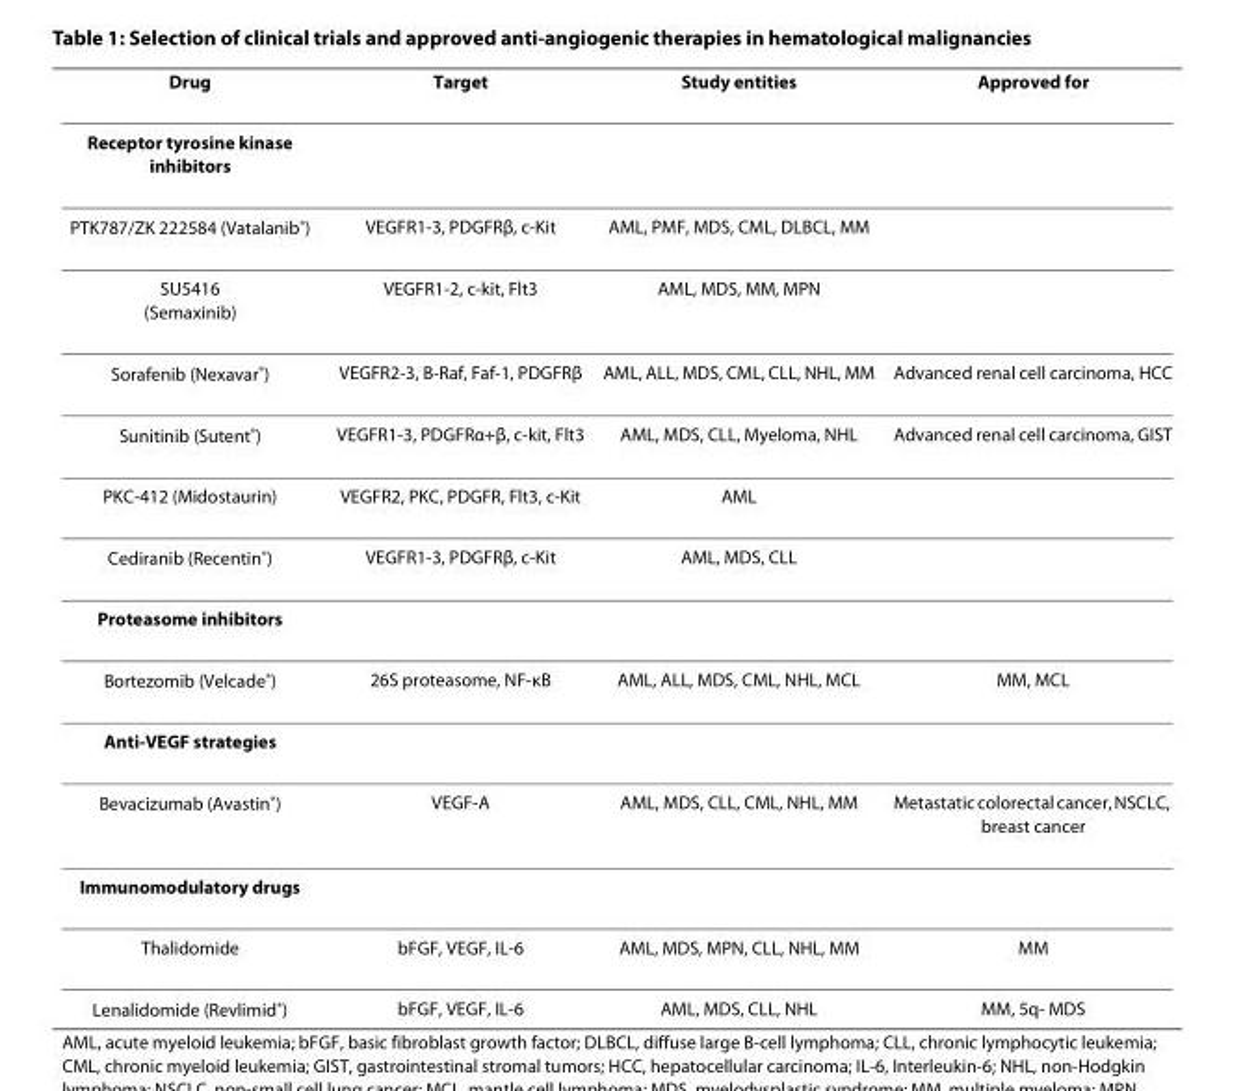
<table><thead><tr><td>Drug</td><td>Target</td><td>Study entities</td><td>Approved for</td></tr></thead><tbody><tr><td colspan="4">Receptor tyrosine kinase inhibitors</td></tr><tr><td>PTK787/ZK 222584 (Vatalanib<sup>®</sup>)</td><td>VEGFR1-3, PDGFRβ, c-Kit</td><td>AML, PMF, MDS, CML, DLBCL, MM</td><td></td></tr><tr><td>SU5416 (Semaxinib)</td><td>VEGFR1-2, c-kit, Flt3</td><td>AML, MDS, MM, MPN</td><td></td></tr><tr><td>Sorafenib (Nexavar<sup>®</sup>)</td><td>VEGFR2-3, B-Raf, Faf-1, PDGFRβ</td><td>AML, ALL, MDS, CML, CLL, NHL, MM</td><td>Advanced renal cell carcinoma, HCC</td></tr><tr><td>Sunitinib (Sutent<sup>®</sup>)</td><td>VEGFR1-3, PDGFRα+β, c-kit, Flt3</td><td>AML, MDS, CLL, Myeloma, NHL</td><td>Advanced renal cell carcinoma, GIST</td></tr><tr><td>PKC-412 (Midostaurin)</td><td>VEGFR2, PKC, PDGFR, Flt3, c-Kit</td><td>AML</td><td></td></tr><tr><td>Cediranib (Recentin<sup>®</sup>)</td><td>VEGFR1-3, PDGFRβ, c-Kit</td><td>AML, MDS, CLL</td><td></td></tr><tr><td colspan="4">Proteasome inhibitors</td></tr><tr><td>Bortezomib (Velcade<sup>®</sup>)</td><td>26S proteasome, NF-κB</td><td>AML, ALL, MDS, CML, NHL, MCL</td><td>MM, MCL</td></tr><tr><td colspan="4">Anti-VEGF strategies</td></tr><tr><td>Bevacizumab (Avastin<sup>®</sup>)</td><td>VEGF-A</td><td>AML, MDS, CLL, CML, NHL, MM</td><td>Metastatic colorectal cancer, NSCLC, breast cancer</td></tr><tr><td colspan="4">Immunomodulatory drugs</td></tr><tr><td>Thalidomide</td><td>bFGF, VEGF, IL-6</td><td>AML, MDS, MPN, CLL, NHL, MM</td><td>MM</td></tr><tr><td>Lenalidomide (Revlimid<sup>®</sup>)</td><td>bFGF, VEGF, IL-6</td><td>AML, MDS, CLL, NHL</td><td>MM, 5q- MDS</td></tr></tbody></table>